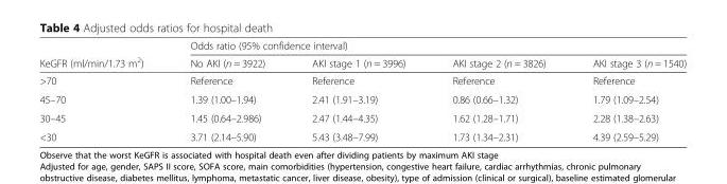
<table><thead><tr><td rowspan="2">KeGFR (ml/min/1.73 m<sup>2</sup>)</td><td colspan="4">Odds ratio (95% confidence interval)</td></tr><tr><td>No AKI (n = 3922)</td><td>AKI stage 1 (n = 3996)</td><td>AKI stage 2 (n = 3826)</td><td>AKI stage 3 (n = 1540)</td></tr></thead><tbody><tr><td>&gt;70</td><td>Reference</td><td>Reference</td><td>Reference</td><td>Reference</td></tr><tr><td>45–70</td><td>1.39 (1.00–1.94)</td><td>2.41 (1.91–3.19)</td><td>0.86 (0.66–1.32)</td><td>1.79 (1.09–2.54)</td></tr><tr><td>30–45</td><td>1.45 (0.64–2.986)</td><td>2.47 (1.44–4.35)</td><td>1.62 (1.28–1.71)</td><td>2.28 (1.38–2.63)</td></tr><tr><td>&lt;30</td><td>3.71 (2.14–5.90)</td><td>5.43 (3.48–7.99)</td><td>1.73 (1.34–2.31)</td><td>4.39 (2.59–5.29)</td></tr></tbody></table>